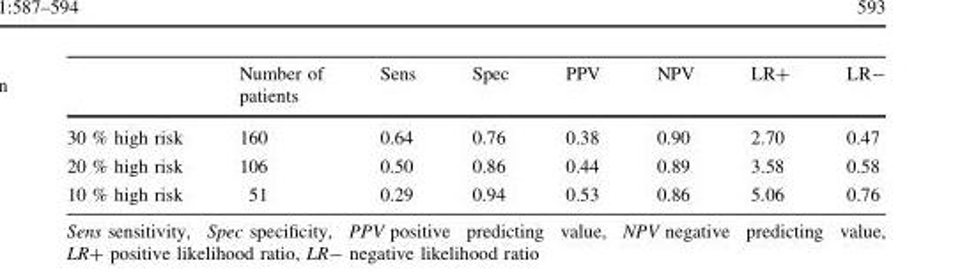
<table><thead><tr><td></td><td>Number of patients</td><td>Sens</td><td>Spec</td><td>PPV</td><td>NPV</td><td>LR+</td><td>LR-</td></tr></thead><tbody><tr><td>30 % high risk</td><td>160</td><td>0.64</td><td>0.76</td><td>0.38</td><td>0.90</td><td>2.70</td><td>0.47</td></tr><tr><td>20 % high risk</td><td>106</td><td>0.50</td><td>0.86</td><td>0.44</td><td>0.89</td><td>3.58</td><td>0.58</td></tr><tr><td>10 % high risk</td><td>51</td><td>0.29</td><td>0.94</td><td>0.53</td><td>0.86</td><td>5.06</td><td>0.76</td></tr></tbody></table>